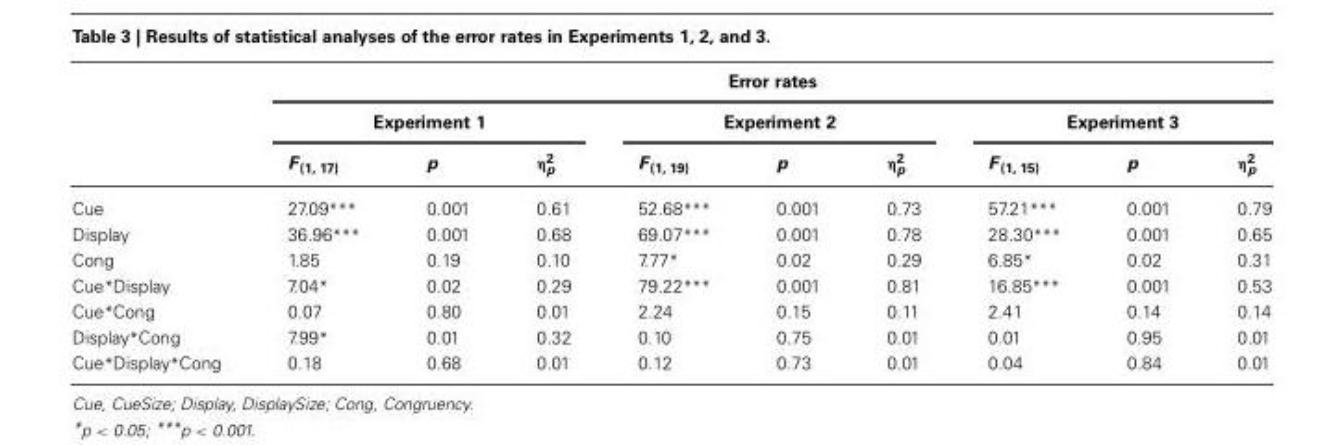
<table><thead><tr><td rowspan="3"></td><td colspan="9">Error rates</td></tr><tr><td colspan="3">Experiment 1</td><td colspan="3">Experiment 2</td><td colspan="3">Experiment 3</td></tr><tr><td>F <sub>(1, 17)</sub></td><td>p</td><td>η<sup>2</sup> <sub>p</sub></td><td>F <sub>(1, 19)</sub></td><td>p</td><td>η<sup>2</sup> <sub>p</sub></td><td>F <sub>(1, 15)</sub></td><td>p</td><td>η<sup>2</sup> <sub>p</sub></td></tr></thead><tbody><tr><td>Cue</td><td>27.09***</td><td>0.001</td><td>0.61</td><td>52.68***</td><td>0.001</td><td>0.73</td><td>57.21***</td><td>0.001</td><td>0.79</td></tr><tr><td>Display</td><td>36.96***</td><td>0.001</td><td>0.68</td><td>69.07***</td><td>0.001</td><td>0.78</td><td>28.30***</td><td>0.001</td><td>0.65</td></tr><tr><td>Cong</td><td>1.85</td><td>0.19</td><td>0.10</td><td>7.77*</td><td>0.02</td><td>0.29</td><td>6.85*</td><td>0.02</td><td>0.31</td></tr><tr><td>Cue*Display</td><td>7.04*</td><td>0.02</td><td>0.29</td><td>79.22***</td><td>0.001</td><td>0.81</td><td>16.85***</td><td>0.001</td><td>0.53</td></tr><tr><td>Cue*Cong</td><td>0.07</td><td>0.80</td><td>0.01</td><td>2.24</td><td>0.15</td><td>0.11</td><td>2.41</td><td>0.14</td><td>0.14</td></tr><tr><td>Display*Cong</td><td>7.99*</td><td>0.01</td><td>0.32</td><td>0.10</td><td>0.75</td><td>0.01</td><td>0.01</td><td>0.95</td><td>0.01</td></tr><tr><td>Cue*Display*Cong</td><td>0.18</td><td>0.68</td><td>0.01</td><td>0.12</td><td>0.73</td><td>0.01</td><td>0.04</td><td>0.84</td><td>0.01</td></tr></tbody></table>